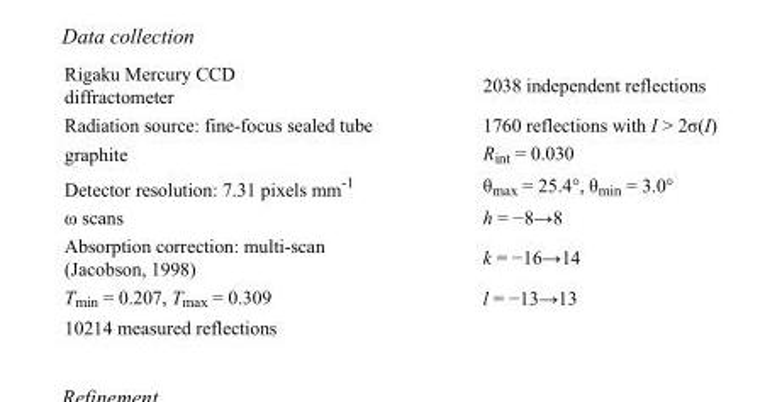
<table><tbody><tr><td>Rigaku Mercury CCD diffractometer</td><td>2038 independent reflections</td></tr><tr><td>Radiation source: fine-focus sealed tube</td><td>1760 reflections with I &gt; 2σ(I)</td></tr><tr><td>graphite</td><td>R<sub>int</sub> = 0.030</td></tr><tr><td>Detector resolution: 7.31 pixels mm<sup>-1</sup></td><td>θ<sub>max</sub> = 25.4°, θ<sub>min</sub> = 3.0°</td></tr><tr><td>ω scans</td><td>h = −8→8</td></tr><tr><td>Absorption correction: multi-scan (Jacobson, 1998)</td><td>k = −16→14</td></tr><tr><td>T<sub>min</sub> = 0.207, T<sub>max</sub> = 0.309</td><td>l = −13→13</td></tr><tr><td>10214 measured reflections</td><td></td></tr></tbody></table>